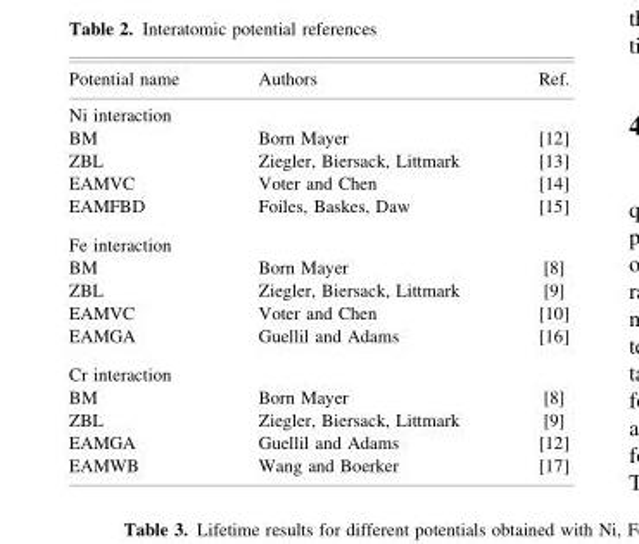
<table><thead><tr><td>Potential name</td><td>Authors</td><td>Ref.</td></tr></thead><tbody><tr><td colspan="3">Ni interaction</td></tr><tr><td>BM</td><td>Born Mayer</td><td>[12]</td></tr><tr><td>ZBL</td><td>Ziegler, Biersack, Littmark</td><td>[13]</td></tr><tr><td>EAMVC</td><td>Voter and Chen</td><td>[14]</td></tr><tr><td>EAMFBD</td><td>Foiles, Baskes, Daw</td><td>[15]</td></tr><tr><td colspan="3">Fe interaction</td></tr><tr><td>BM</td><td>Born Mayer</td><td>[8]</td></tr><tr><td>ZBL</td><td>Ziegler, Biersack, Littmark</td><td>[9]</td></tr><tr><td>EAMVC</td><td>Voter and Chen</td><td>[10]</td></tr><tr><td>EAMGA</td><td>Guellil and Adams</td><td>[16]</td></tr><tr><td colspan="3">Cr interaction</td></tr><tr><td>BM</td><td>Born Mayer</td><td>[8]</td></tr><tr><td>ZBL</td><td>Ziegler, Biersack, Littmark</td><td>[9]</td></tr><tr><td>EAMGA</td><td>Guellil and Adams</td><td>[12]</td></tr><tr><td>EAMWB</td><td>Wang and Boerker</td><td>[17]</td></tr></tbody></table>